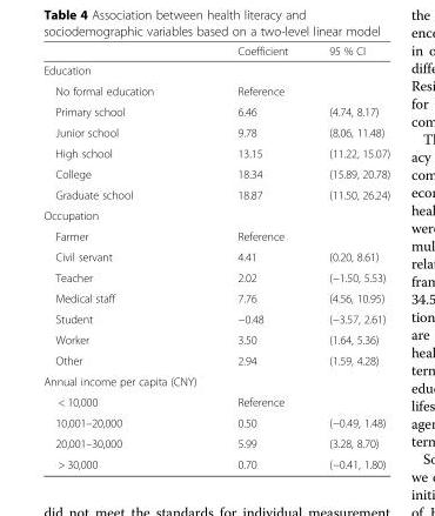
<table><thead><tr><td></td><td>Coefficient</td><td>95 % CI</td></tr></thead><tbody><tr><td colspan="3">Education</td></tr><tr><td>No formal education</td><td>Reference</td><td></td></tr><tr><td>Primary school</td><td>6.46</td><td>(4.74, 8.17)</td></tr><tr><td>Junior school</td><td>9.78</td><td>(8.06, 11.48)</td></tr><tr><td>High school</td><td>13.15</td><td>(11.22, 15.07)</td></tr><tr><td>College</td><td>18.34</td><td>(15.89, 20.78)</td></tr><tr><td>Graduate school</td><td>18.87</td><td>(11.50, 26.24)</td></tr><tr><td colspan="3">Occupation</td></tr><tr><td>Farmer</td><td>Reference</td><td></td></tr><tr><td>Civil servant</td><td>4.41</td><td>(0.20, 8.61)</td></tr><tr><td>Teacher</td><td>2.02</td><td>(−1.50, 5.53)</td></tr><tr><td>Medical staff</td><td>7.76</td><td>(4.56, 10.95)</td></tr><tr><td>Student</td><td>−0.48</td><td>(−3.57, 2.61)</td></tr><tr><td>Worker</td><td>3.50</td><td>(1.64, 5.36)</td></tr><tr><td>Other</td><td>2.94</td><td>(1.59, 4.28)</td></tr><tr><td colspan="3">Annual income per capita (CNY)</td></tr><tr><td>&lt; 10,000</td><td>Reference</td><td></td></tr><tr><td>10,001–20,000</td><td>0.50</td><td>(−0.49, 1.48)</td></tr><tr><td>20,001–30,000</td><td>5.99</td><td>(3.28, 8.70)</td></tr><tr><td>&gt; 30,000</td><td>0.70</td><td>(−0.41, 1.80)</td></tr></tbody></table>